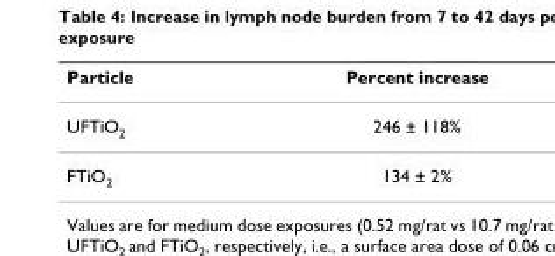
<table><thead><tr><td>Particle</td><td>Percent increase</td></tr></thead><tbody><tr><td>UFTiO<sub>2</sub></td><td>246 ± 118%</td></tr><tr><td>FTiO<sub>2</sub></td><td>134 ± 2%</td></tr></tbody></table>